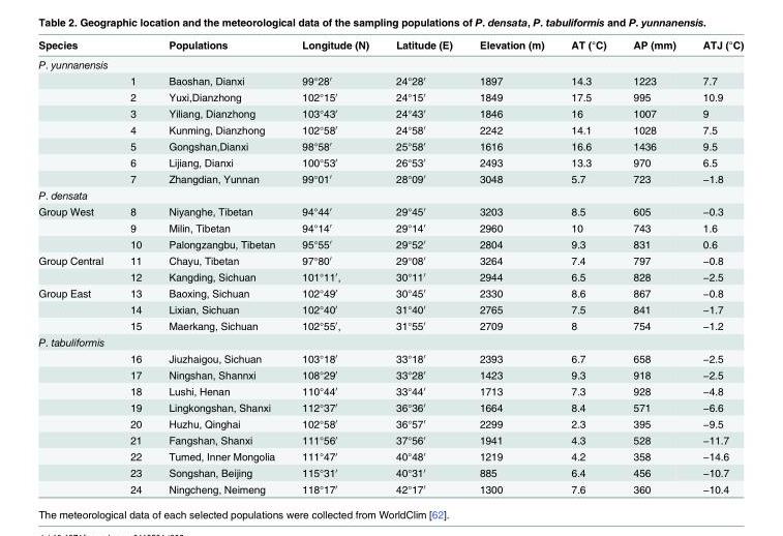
<table><thead><tr><td>Species</td><td></td><td>Populations</td><td>Longitude (N)</td><td>Latitude (E)</td><td>Elevation (m)</td><td>AT (°C)</td><td>AP (mm)</td><td>ATJ (°C)</td></tr></thead><tbody><tr><td colspan="9">P. yunnanensis</td></tr><tr><td></td><td>1</td><td>Baoshan, Dianxi</td><td>99°28′</td><td>24°28′</td><td>1897</td><td>14.3</td><td>1223</td><td>7.7</td></tr><tr><td></td><td>2</td><td>Yuxi,Dianzhong</td><td>102°15′</td><td>24°15′</td><td>1849</td><td>17.5</td><td>995</td><td>10.9</td></tr><tr><td></td><td>3</td><td>Yiliang, Dianzhong</td><td>103°43′</td><td>24°43′</td><td>1846</td><td>16</td><td>1007</td><td>9</td></tr><tr><td></td><td>4</td><td>Kunming, Dianzhong</td><td>102°58′</td><td>24°58′</td><td>2242</td><td>14.1</td><td>1028</td><td>7.5</td></tr><tr><td></td><td>5</td><td>Gongshan,Dianxi</td><td>98°58′</td><td>25°58′</td><td>1616</td><td>16.6</td><td>1436</td><td>9.5</td></tr><tr><td></td><td>6</td><td>Lijiang, Dianxi</td><td>100°53′</td><td>26°53′</td><td>2493</td><td>13.3</td><td>970</td><td>6.5</td></tr><tr><td></td><td>7</td><td>Zhangdian, Yunnan</td><td>99°01′</td><td>28°09′</td><td>3048</td><td>5.7</td><td>723</td><td>−1.8</td></tr><tr><td colspan="9">P. densata</td></tr><tr><td rowspan="3">Group West</td><td>8</td><td>Niyanghe, Tibetan</td><td>94°44′</td><td>29°45′</td><td>3203</td><td>8.5</td><td>605</td><td>−0.3</td></tr><tr><td>9</td><td>Milin, Tibetan</td><td>94°14′</td><td>29°14′</td><td>2960</td><td>10</td><td>743</td><td>1.6</td></tr><tr><td>10</td><td>Palongzangbu, Tibetan</td><td>95°55′</td><td>29°52′</td><td>2804</td><td>9.3</td><td>831</td><td>0.6</td></tr><tr><td rowspan="2">Group Central</td><td>11</td><td>Chayu, Tibetan</td><td>97°80′</td><td>29°08′</td><td>3264</td><td>7.4</td><td>797</td><td>−0.8</td></tr><tr><td>12</td><td>Kangding, Sichuan</td><td>101°11′,</td><td>30°11′</td><td>2944</td><td>6.5</td><td>828</td><td>−2.5</td></tr><tr><td rowspan="3">Group East</td><td>13</td><td>Baoxing, Sichuan</td><td>102°49′</td><td>30°45′</td><td>2330</td><td>8.6</td><td>867</td><td>−0.8</td></tr><tr><td>14</td><td>Lixian, Sichuan</td><td>102°40′</td><td>31°40′</td><td>2765</td><td>7.5</td><td>841</td><td>−1.7</td></tr><tr><td>15</td><td>Maerkang, Sichuan</td><td>102°55′,</td><td>31°55′</td><td>2709</td><td>8</td><td>754</td><td>−1.2</td></tr><tr><td colspan="9">P. tabuliformis</td></tr><tr><td></td><td>16</td><td>Jiuzhaigou, Sichuan</td><td>103°18′</td><td>33°18′</td><td>2393</td><td>6.7</td><td>658</td><td>−2.5</td></tr><tr><td></td><td>17</td><td>Ningshan, Shannxi</td><td>108°29′</td><td>33°28′</td><td>1423</td><td>9.3</td><td>918</td><td>−2.5</td></tr><tr><td></td><td>18</td><td>Lushi, Henan</td><td>110°44′</td><td>33°44′</td><td>1713</td><td>7.3</td><td>928</td><td>−4.8</td></tr><tr><td></td><td>19</td><td>Lingkongshan, Shanxi</td><td>112°37′</td><td>36°36′</td><td>1664</td><td>8.4</td><td>571</td><td>−6.6</td></tr><tr><td></td><td>20</td><td>Huzhu, Qinghai</td><td>102°58′</td><td>36°57′</td><td>2299</td><td>2.3</td><td>395</td><td>−9.5</td></tr><tr><td></td><td>21</td><td>Fangshan, Shanxi</td><td>111°56′</td><td>37°56′</td><td>1941</td><td>4.3</td><td>528</td><td>−11.7</td></tr><tr><td></td><td>22</td><td>Tumed, Inner Mongolia</td><td>111°47′</td><td>40°48′</td><td>1219</td><td>4.2</td><td>358</td><td>−14.6</td></tr><tr><td></td><td>23</td><td>Songshan, Beijing</td><td>115°31′</td><td>40°31′</td><td>885</td><td>6.4</td><td>456</td><td>−10.7</td></tr><tr><td></td><td>24</td><td>Ningcheng, Neimeng</td><td>118°17′</td><td>42°17′</td><td>1300</td><td>7.6</td><td>360</td><td>−10.4</td></tr></tbody></table>